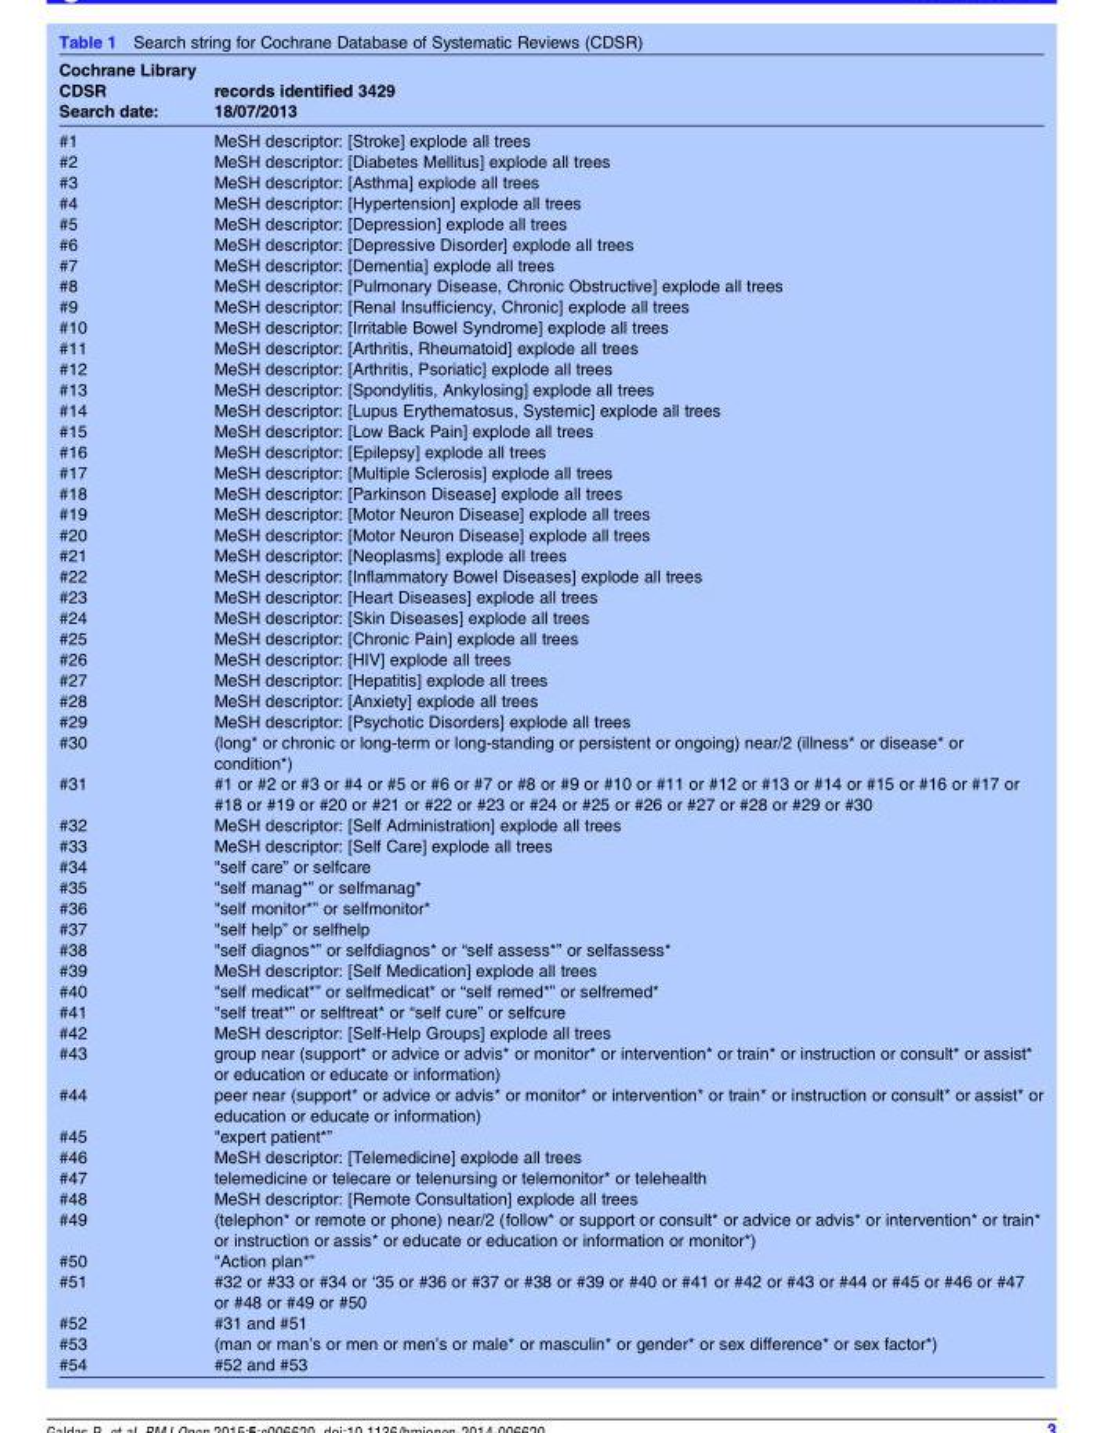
<table><thead><tr><td rowspan="3">Cochrane Library CDSR Search date:</td><td rowspan="3">records identified 3429 18/07/2013</td></tr><tr></tr><tr></tr></thead><tbody><tr><td>#1</td><td>MeSH descriptor: [Stroke] explode all trees</td></tr><tr><td>#2</td><td>MeSH descriptor: [Diabetes Mellitus] explode all trees</td></tr><tr><td>#3</td><td>MeSH descriptor: [Asthma] explode all trees</td></tr><tr><td>#4</td><td>MeSH descriptor: [Hypertension] explode all trees</td></tr><tr><td>#5</td><td>MeSH descriptor: [Depression] explode all trees</td></tr><tr><td>#6</td><td>MeSH descriptor: [Depressive Disorder] explode all trees</td></tr><tr><td>#7</td><td>MeSH descriptor: [Dementia] explode all trees</td></tr><tr><td>#8</td><td>MeSH descriptor: [Pulmonary Disease, Chronic Obstructive] explode all trees</td></tr><tr><td>#9</td><td>MeSH descriptor: [Renal Insufficiency, Chronic] explode all trees</td></tr><tr><td>#10</td><td>MeSH descriptor: [Irritable Bowel Syndrome] explode all trees</td></tr><tr><td>#11</td><td>MeSH descriptor: [Arthritis, Rheumatoid] explode all trees</td></tr><tr><td>#12</td><td>MeSH descriptor: [Arthritis, Psoriatic] explode all trees</td></tr><tr><td>#13</td><td>MeSH descriptor: [Spondylitis, Ankylosing] explode all trees</td></tr><tr><td>#14</td><td>MeSH descriptor: [Lupus Erythematosus, Systemic] explode all trees</td></tr><tr><td>#15</td><td>MeSH descriptor: [Low Back Pain] explode all trees</td></tr><tr><td>#16</td><td>MeSH descriptor: [Epilepsy] explode all trees</td></tr><tr><td>#17</td><td>MeSH descriptor: [Multiple Sclerosis] explode all trees</td></tr><tr><td>#18</td><td>MeSH descriptor: [Parkinson Disease] explode all trees</td></tr><tr><td>#19</td><td>MeSH descriptor: [Motor Neuron Disease] explode all trees</td></tr><tr><td>#20</td><td>MeSH descriptor: [Motor Neuron Disease] explode all trees</td></tr><tr><td>#21</td><td>MeSH descriptor: [Neoplasms] explode all trees</td></tr><tr><td>#22</td><td>MeSH descriptor: [Inflammatory Bowel Diseases] explode all trees</td></tr><tr><td>#23</td><td>MeSH descriptor: [Heart Diseases] explode all trees</td></tr><tr><td>#24</td><td>MeSH descriptor: [Skin Diseases] explode all trees</td></tr><tr><td>#25</td><td>MeSH descriptor: [Chronic Pain] explode all trees</td></tr><tr><td>#26</td><td>MeSH descriptor: [HIV] explode all trees</td></tr><tr><td>#27</td><td>MeSH descriptor: [Hepatitis] explode all trees</td></tr><tr><td>#28</td><td>MeSH descriptor: [Anxiety] explode all trees</td></tr><tr><td>#29</td><td>MeSH descriptor: [Psychotic Disorders] explode all trees</td></tr><tr><td>#30</td><td>(long* or chronic or long-term or long-standing or persistent or ongoing) near/2 (illness* or disease* or condition*)</td></tr><tr><td>#31</td><td>#1 or #2 or #3 or #4 or #5 or #6 or #7 or #8 or #9 or #10 or #11 or #12 or #13 or #14 or #15 or #16 or #17 or #18 or #19 or #20 or #21 or #22 or #23 or #24 or #25 or #26 or #27 or #28 or #29 or #30</td></tr><tr><td>#32</td><td>MeSH descriptor: [Self Administration] explode all trees</td></tr><tr><td>#33</td><td>MeSH descriptor: [Self Care] explode all trees</td></tr><tr><td>#34</td><td>&quot;self care” or selfcare</td></tr><tr><td>#35</td><td>&quot;self manag*” or selfmanag*</td></tr><tr><td>#36</td><td>&quot;self monitor*” or selfmonitor*</td></tr><tr><td>#37</td><td>&quot;self help” or selfhelp</td></tr><tr><td>#38</td><td>&quot;self diagnos*” or selfdiagnos* or “self assess*” or selfassess*</td></tr><tr><td>#39</td><td>MeSH descriptor: [Self Medication] explode all trees</td></tr><tr><td>#40</td><td>&quot;self medicat*” or selfmedicat* or “self remed*” or selfremed*</td></tr><tr><td>#41</td><td>&quot;self treat*” or selftreat* or “self cure” or selfcure</td></tr><tr><td>#42</td><td>MeSH descriptor: [Self-Help Groups] explode all trees</td></tr><tr><td>#43</td><td>group near (support* or advice or advis* or monitor* or intervention* or train* or instruction or consult* or assist* or education or educate or information)</td></tr><tr><td>#44</td><td>peer near (support* or advice or advis* or monitor* or intervention* or train* or instruction or consult* or assist* or education or educate or information)</td></tr><tr><td>#45</td><td>&quot;expert patient*”</td></tr><tr><td>#46</td><td>MeSH descriptor: [Telemedicine] explode all trees</td></tr><tr><td>#47</td><td>telemedicine or telecare or telenursing or telemonitor* or telehealth</td></tr><tr><td>#48</td><td>MeSH descriptor: [Remote Consultation] explode all trees</td></tr><tr><td>#49</td><td>(telephon* or remote or phone) near/2 (follow* or support or consult* or advice or advis* or intervention* or train* or instruction or assis* or educate or education or information or monitor*)</td></tr><tr><td>#50</td><td>&quot;Action plan*”</td></tr><tr><td>#51</td><td>#32 or #33 or #34 or ‘35 or #36 or #37 or #38 or #39 or #40 or #41 or #42 or #43 or #44 or #45 or #46 or #47 or #48 or #49 or #50</td></tr><tr><td>#52</td><td>#31 and #51</td></tr><tr><td>#53</td><td>(man or man’s or men or men’s or male* or masculin* or gender* or sex difference* or sex factor*)</td></tr><tr><td>#54</td><td>#52 and #53</td></tr></tbody></table>